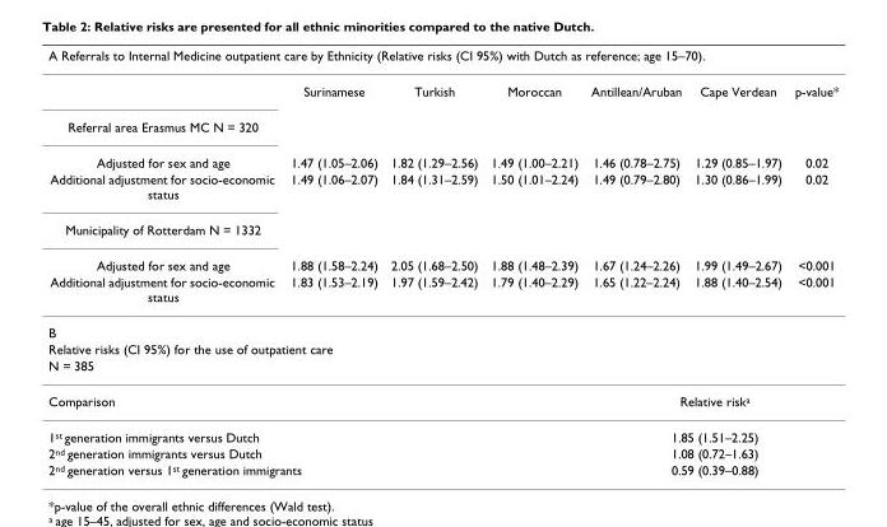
<table><thead><tr><td colspan="7">A Referrals to Internal Medicine outpatient care by Ethnicity (Relative risks (CI 95%) with Dutch as reference; age 15–70).</td></tr><tr><td></td><td>Surinamese</td><td>Turkish</td><td>Moroccan</td><td>Antillean/Aruban</td><td>Cape Verdean</td><td>p-value*</td></tr></thead><tbody><tr><td colspan="7">Referral area Erasmus MC N = 320</td></tr><tr><td>Adjusted for sex and age</td><td>1.47 (1.05–2.06)</td><td>1.82 (1.29–2.56)</td><td>1.49 (1.00–2.21)</td><td>1.46 (0.78–2.75)</td><td>1.29 (0.85–1.97)</td><td>0.02</td></tr><tr><td>Additional adjustment for socio-economic status</td><td>1.49 (1.06–2.07)</td><td>1.84 (1.31–2.59)</td><td>1.50 (1.01–2.24)</td><td>1.49 (0.79–2.80)</td><td>1.30 (0.86–1.99)</td><td>0.02</td></tr><tr><td colspan="7">Municipality of Rotterdam N = 1332</td></tr><tr><td>Adjusted for sex and age</td><td>1.88 (1.58–2.24)</td><td>2.05 (1.68–2.50)</td><td>1.88 (1.48–2.39)</td><td>1.67 (1.24–2.26)</td><td>1.99 (1.49–2.67)</td><td>&lt;0.001</td></tr><tr><td>Additional adjustment for socio-economic status</td><td>1.83 (1.53–2.19)</td><td>1.97 (1.59–2.42)</td><td>1.79 (1.40–2.29)</td><td>1.65 (1.22–2.24)</td><td>1.88 (1.40–2.54)</td><td>&lt;0.001</td></tr><tr><td colspan="7">B</td></tr><tr><td colspan="7">Relative risks (CI 95%) for the use of outpatient care</td></tr><tr><td colspan="7">N = 385</td></tr><tr><td colspan="4">Comparison</td><td colspan="3">Relative risk<sup>a</sup></td></tr><tr><td colspan="4">1<sup>st</sup> generation immigrants versus Dutch</td><td colspan="3">1.85 (1.51–2.25)</td></tr><tr><td colspan="4">2<sup>nd</sup> generation immigrants versus Dutch</td><td colspan="3">1.08 (0.72–1.63)</td></tr><tr><td colspan="4">2<sup>nd</sup> generation versus 1<sup>st</sup> generation immigrants</td><td colspan="3">0.59 (0.39–0.88)</td></tr></tbody></table>